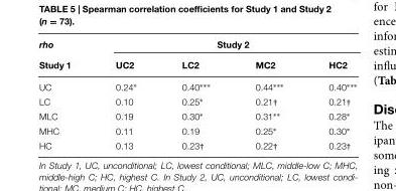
<table><thead><tr><td rowspan="2">rho Study 1</td><td colspan="4">Study 2</td></tr><tr><td>UC2</td><td>LC2</td><td>MC2</td><td>HC2</td></tr></thead><tbody><tr><td>UC</td><td>0.24∗</td><td>0.40∗∗∗</td><td>0.44∗∗∗</td><td>0.40∗∗∗</td></tr><tr><td>LC</td><td>0.10</td><td>0.25∗</td><td>0.21†</td><td>0.21†</td></tr><tr><td>MLC</td><td>0.19</td><td>0.30∗</td><td>0.31∗∗</td><td>0.28∗</td></tr><tr><td>MHC</td><td>0.11</td><td>0.19</td><td>0.25∗</td><td>0.30∗</td></tr><tr><td>HC</td><td>0.13</td><td>0.23†</td><td>0.22†</td><td>0.23†</td></tr></tbody></table>